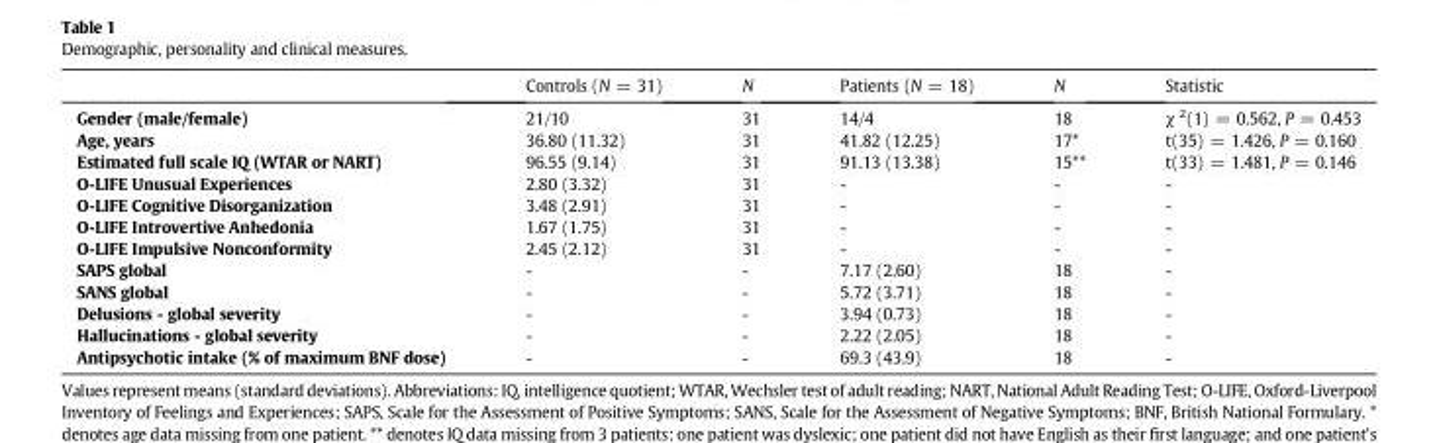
<table><thead><tr><td></td><td>Controls (N = 31)</td><td>N</td><td>Patients (N = 18)</td><td>N</td><td>Statistic</td></tr></thead><tbody><tr><td>Gender (male/female)</td><td>21/10</td><td>31</td><td>14/4</td><td>18</td><td>χ <sup>2</sup>(1) = 0.562, P = 0.453</td></tr><tr><td>Age, years</td><td>36.80 (11.32)</td><td>31</td><td>41.82 (12.25)</td><td>17*</td><td>t(35) = 1.426, P = 0.160</td></tr><tr><td>Estimated full scale IQ (WTAR or NART)</td><td>96.55 (9.14)</td><td>31</td><td>91.13 (13.38)</td><td>15**</td><td>t(33) = 1.481, P = 0.146</td></tr><tr><td>O-LIFE Unusual Experiences</td><td>2.80 (3.32)</td><td>31</td><td>-</td><td>-</td><td>-</td></tr><tr><td>O-LIFE Cognitive Disorganization</td><td>3.48 (2.91)</td><td>31</td><td>-</td><td>-</td><td>-</td></tr><tr><td>O-LIFE Introvertive Anhedonia</td><td>1.67 (1.75)</td><td>31</td><td>-</td><td>-</td><td>-</td></tr><tr><td>O-LIFE Impulsive Nonconformity</td><td>2.45 (2.12)</td><td>31</td><td>-</td><td>-</td><td>-</td></tr><tr><td>SAPS global</td><td>-</td><td>-</td><td>7.17 (2.60)</td><td>18</td><td>-</td></tr><tr><td>SANS global</td><td>-</td><td>-</td><td>5.72 (3.71)</td><td>18</td><td>-</td></tr><tr><td>Delusions - global severity</td><td>-</td><td>-</td><td>3.94 (0.73)</td><td>18</td><td>-</td></tr><tr><td>Hallucinations - global severity</td><td>-</td><td>-</td><td>2.22 (2.05)</td><td>18</td><td>-</td></tr><tr><td>Antipsychotic intake (% of maximum BNF dose)</td><td>-</td><td>-</td><td>69.3 (43.9)</td><td>18</td><td>-</td></tr></tbody></table>